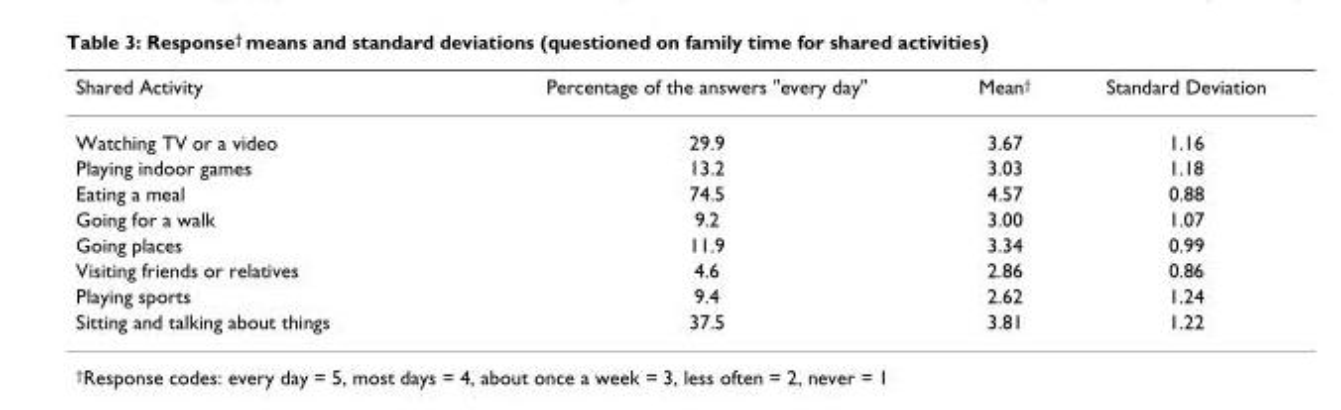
<table><thead><tr><td>Shared Activity</td><td>Percentage of the answers &quot;every day&quot;</td><td>Mean†</td><td>Standard Deviation</td></tr></thead><tbody><tr><td>Watching TV or a video</td><td>29.9</td><td>3.67</td><td>1.16</td></tr><tr><td>Playing indoor games</td><td>13.2</td><td>3.03</td><td>1.18</td></tr><tr><td>Eating a meal</td><td>74.5</td><td>4.57</td><td>0.88</td></tr><tr><td>Going for a walk</td><td>9.2</td><td>3.00</td><td>1.07</td></tr><tr><td>Going places</td><td>11.9</td><td>3.34</td><td>0.99</td></tr><tr><td>Visiting friends or relatives</td><td>4.6</td><td>2.86</td><td>0.86</td></tr><tr><td>Playing sports</td><td>9.4</td><td>2.62</td><td>1.24</td></tr><tr><td>Sitting and talking about things</td><td>37.5</td><td>3.81</td><td>1.22</td></tr></tbody></table>